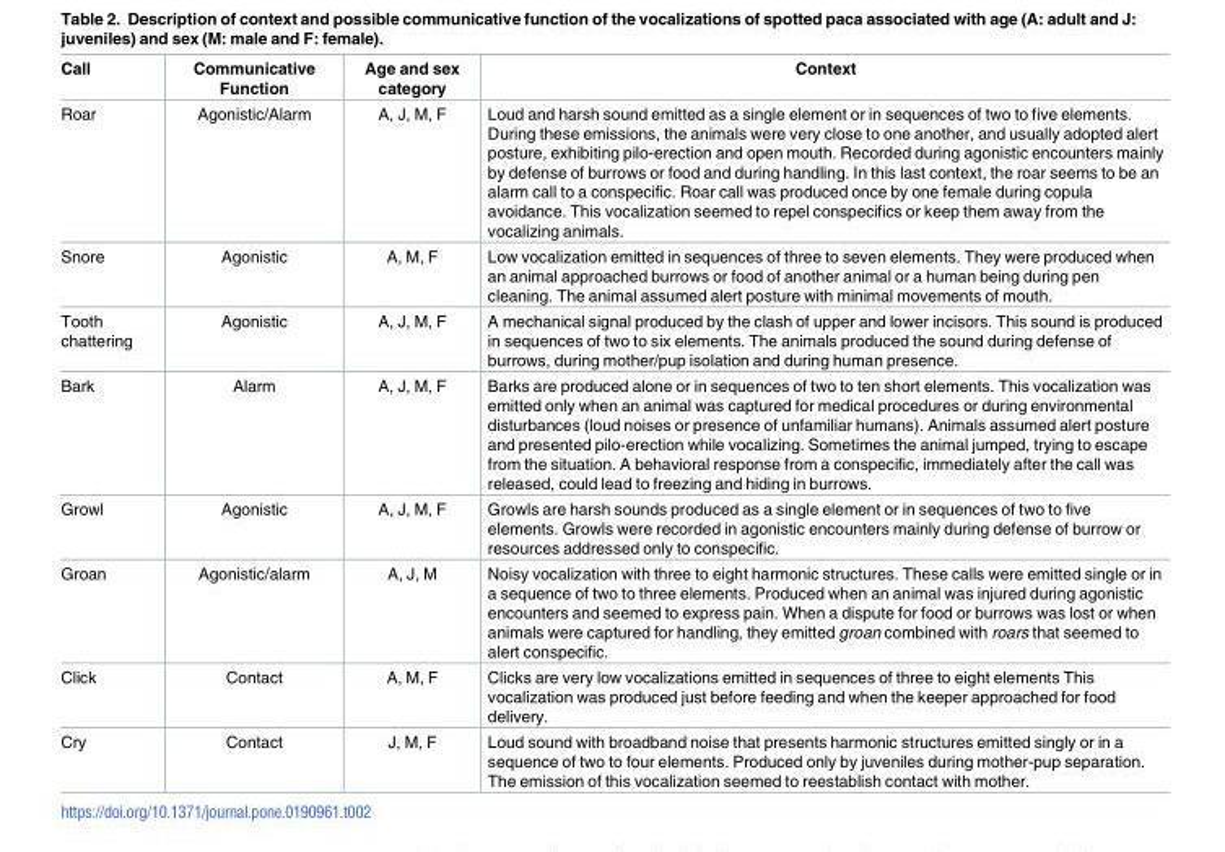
<table><thead><tr><td>Call</td><td>Communicative Function</td><td>Age and sex category</td><td>Context</td></tr></thead><tbody><tr><td>Roar</td><td>Agonistic/Alarm</td><td>A, J, M, F</td><td>Loud and harsh sound emitted as a single element or in sequences of two to five elements. During these emissions, the animals were very close to one another, and usually adopted alert posture, exhibiting pilo-erection and open mouth. Recorded during agonistic encounters mainly by defense of burrows or food and during handling. In this last context, the roar seems to be an alarm call to a conspecific. Roar call was produced once by one female during copula avoidance. This vocalization seemed to repel conspecifics or keep them away from the vocalizing animals.</td></tr><tr><td>Snore</td><td>Agonistic</td><td>A, M, F</td><td>Low vocalization emitted in sequences of three to seven elements. They were produced when an animal approached burrows or food of another animal or a human being during pen cleaning. The animal assumed alert posture with minimal movements of mouth.</td></tr><tr><td>Tooth chattering</td><td>Agonistic</td><td>A, J, M, F</td><td>A mechanical signal produced by the clash of upper and lower incisors. This sound is produced in sequences of two to six elements. The animals produced the sound during defense of burrows, during mother/pup isolation and during human presence.</td></tr><tr><td>Bark</td><td>Alarm</td><td>A, J, M, F</td><td>Barks are produced alone or in sequences of two to ten short elements. This vocalization was emitted only when an animal was captured for medical procedures or during environmental disturbances (loud noises or presence of unfamiliar humans). Animals assumed alert posture and presented pilo-erection while vocalizing. Sometimes the animal jumped, trying to escape from the situation. A behavioral response from a conspecific, immediately after the call was released, could lead to freezing and hiding in burrows.</td></tr><tr><td>Growl</td><td>Agonistic</td><td>A, J, M, F</td><td>Growls are harsh sounds produced as a single element or in sequences of two to five elements. Growls were recorded in agonistic encounters mainly during defense of burrow or resources addressed only to conspecific.</td></tr><tr><td>Groan</td><td>Agonistic/alarm</td><td>A, J, M</td><td>Noisy vocalization with three to eight harmonic structures. These calls were emitted single or in a sequence of two to three elements. Produced when an animal was injured during agonistic encounters and seemed to express pain. When a dispute for food or burrows was lost or when animals were captured for handling, they emitted groan combined with roars that seemed to alert conspecific.</td></tr><tr><td>Click</td><td>Contact</td><td>A, M, F</td><td>Clicks are very low vocalizations emitted in sequences of three to eight elements This vocalization was produced just before feeding and when the keeper approached for food delivery.</td></tr><tr><td>Cry</td><td>Contact</td><td>J, M, F</td><td>Loud sound with broadband noise that presents harmonic structures emitted singly or in a sequence of two to four elements. Produced only by juveniles during mother-pup separation. The emission of this vocalization seemed to reestablish contact with mother.</td></tr></tbody></table>